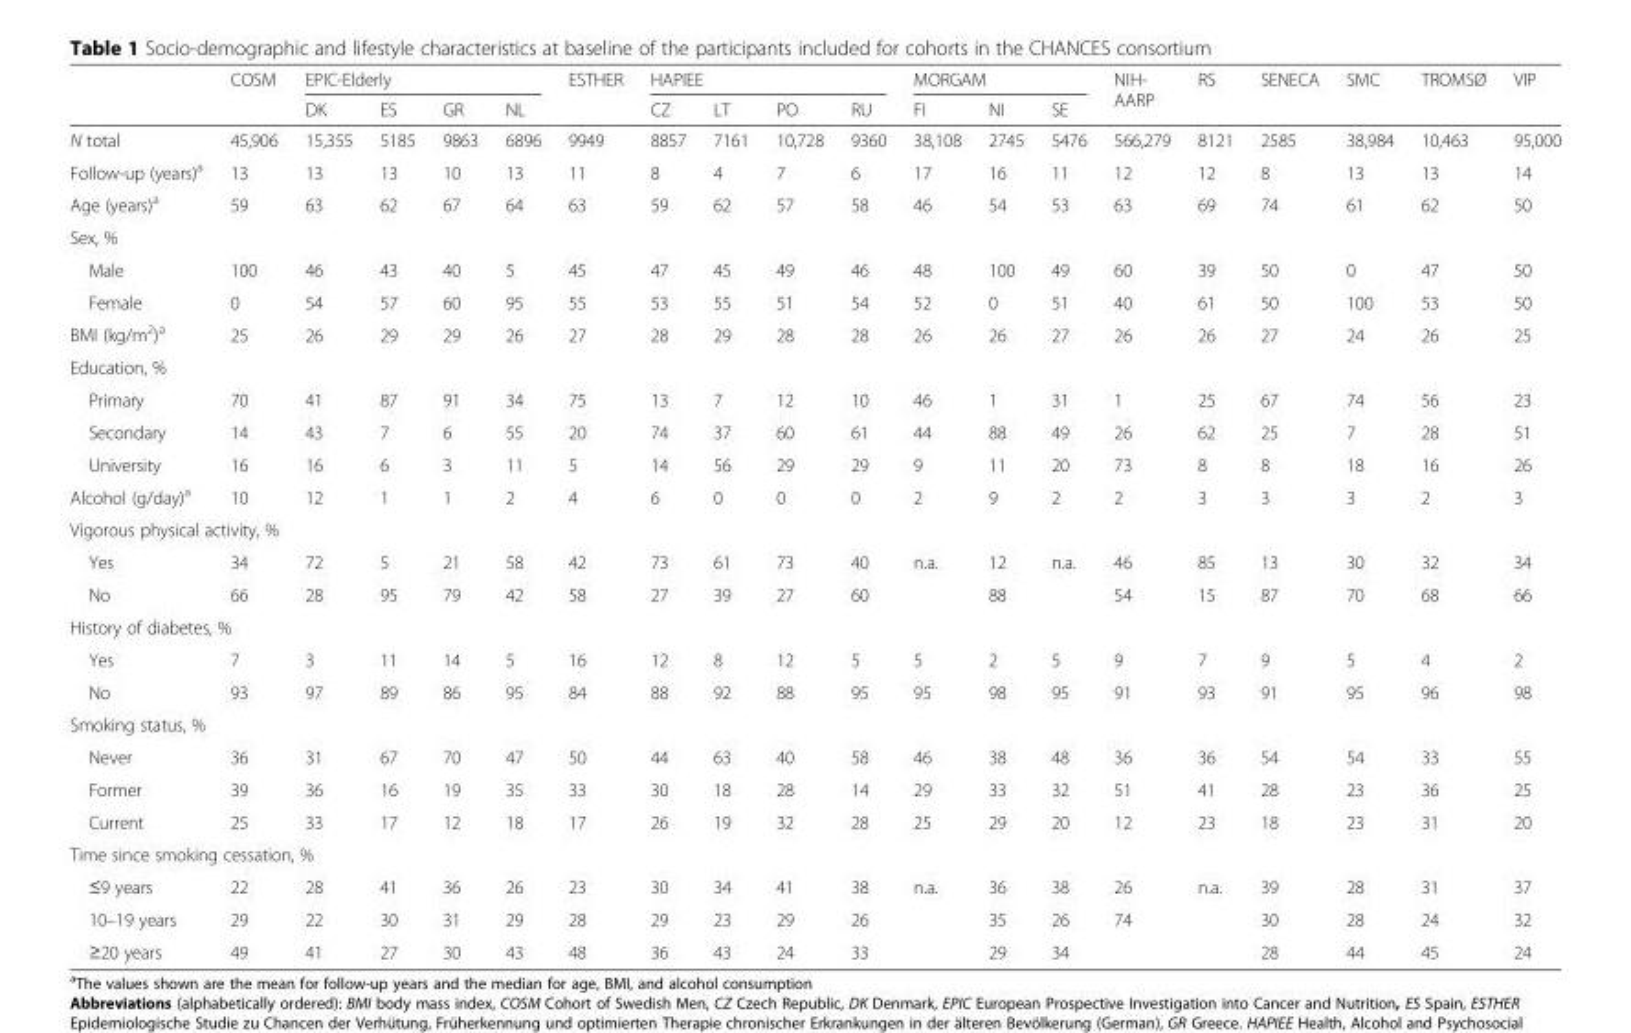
<table><thead><tr><td rowspan="2"></td><td rowspan="2">COSM</td><td colspan="4">EPIC-Elderly</td><td rowspan="2">ESTHER</td><td colspan="4">HAPIEE</td><td colspan="3">MORGAM</td><td rowspan="2">NIH- AARP</td><td rowspan="2">RS</td><td rowspan="2">SENECA</td><td rowspan="2">SMC</td><td rowspan="2">TROMSØ</td><td rowspan="2">VIP</td></tr><tr><td>DK</td><td>ES</td><td>GR</td><td>NL</td><td>CZ</td><td>LT</td><td>PO</td><td>RU</td><td>FI</td><td>NI</td><td>SE</td></tr></thead><tbody><tr><td>N total</td><td>45,906</td><td>15,355</td><td>5185</td><td>9863</td><td>6896</td><td>9949</td><td>8857</td><td>7161</td><td>10,728</td><td>9360</td><td>38,108</td><td>2745</td><td>5476</td><td>566,279</td><td>8121</td><td>2585</td><td>38,984</td><td>10,463</td><td>95,000</td></tr><tr><td>Follow-up (years)<sup>a</sup></td><td>13</td><td>13</td><td>13</td><td>10</td><td>13</td><td>11</td><td>8</td><td>4</td><td>7</td><td>6</td><td>17</td><td>16</td><td>11</td><td>12</td><td>12</td><td>8</td><td>13</td><td>13</td><td>14</td></tr><tr><td>Age (years)<sup>a</sup></td><td>59</td><td>63</td><td>62</td><td>67</td><td>64</td><td>63</td><td>59</td><td>62</td><td>57</td><td>58</td><td>46</td><td>54</td><td>53</td><td>63</td><td>69</td><td>74</td><td>61</td><td>62</td><td>50</td></tr><tr><td colspan="20">Sex, %</td></tr><tr><td>Male</td><td>100</td><td>46</td><td>43</td><td>40</td><td>5</td><td>45</td><td>47</td><td>45</td><td>49</td><td>46</td><td>48</td><td>100</td><td>49</td><td>60</td><td>39</td><td>50</td><td>0</td><td>47</td><td>50</td></tr><tr><td>Female</td><td>0</td><td>54</td><td>57</td><td>60</td><td>95</td><td>55</td><td>53</td><td>55</td><td>51</td><td>54</td><td>52</td><td>0</td><td>51</td><td>40</td><td>61</td><td>50</td><td>100</td><td>53</td><td>50</td></tr><tr><td>BMI (kg/m<sup>2</sup>)<sup>a</sup></td><td>25</td><td>26</td><td>29</td><td>29</td><td>26</td><td>27</td><td>28</td><td>29</td><td>28</td><td>28</td><td>26</td><td>26</td><td>27</td><td>26</td><td>26</td><td>27</td><td>24</td><td>26</td><td>25</td></tr><tr><td colspan="20">Education, %</td></tr><tr><td>Primary</td><td>70</td><td>41</td><td>87</td><td>91</td><td>34</td><td>75</td><td>13</td><td>7</td><td>12</td><td>10</td><td>46</td><td>1</td><td>31</td><td>1</td><td>25</td><td>67</td><td>74</td><td>56</td><td>23</td></tr><tr><td>Secondary</td><td>14</td><td>43</td><td>7</td><td>6</td><td>55</td><td>20</td><td>74</td><td>37</td><td>60</td><td>61</td><td>44</td><td>88</td><td>49</td><td>26</td><td>62</td><td>25</td><td>7</td><td>28</td><td>51</td></tr><tr><td>University</td><td>16</td><td>16</td><td>6</td><td>3</td><td>11</td><td>5</td><td>14</td><td>56</td><td>29</td><td>29</td><td>9</td><td>11</td><td>20</td><td>73</td><td>8</td><td>8</td><td>18</td><td>16</td><td>26</td></tr><tr><td>Alcohol (g/day)<sup>a</sup></td><td>10</td><td>12</td><td>1</td><td>1</td><td>2</td><td>4</td><td>6</td><td>0</td><td>0</td><td>0</td><td>2</td><td>9</td><td>2</td><td>2</td><td>3</td><td>3</td><td>3</td><td>2</td><td>3</td></tr><tr><td colspan="20">Vigorous physical activity, %</td></tr><tr><td>Yes</td><td>34</td><td>72</td><td>5</td><td>21</td><td>58</td><td>42</td><td>73</td><td>61</td><td>73</td><td>40</td><td rowspan="2">n.a.</td><td>12</td><td rowspan="2">n.a.</td><td>46</td><td>85</td><td>13</td><td>30</td><td>32</td><td>34</td></tr><tr><td>No</td><td>66</td><td>28</td><td>95</td><td>79</td><td>42</td><td>58</td><td>27</td><td>39</td><td>27</td><td>60</td><td>88</td><td>54</td><td>15</td><td>87</td><td>70</td><td>68</td><td>66</td></tr><tr><td colspan="20">History of diabetes, %</td></tr><tr><td>Yes</td><td>7</td><td>3</td><td>11</td><td>14</td><td>5</td><td>16</td><td>12</td><td>8</td><td>12</td><td>5</td><td>5</td><td>2</td><td>5</td><td>9</td><td>7</td><td>9</td><td>5</td><td>4</td><td>2</td></tr><tr><td>No</td><td>93</td><td>97</td><td>89</td><td>86</td><td>95</td><td>84</td><td>88</td><td>92</td><td>88</td><td>95</td><td>95</td><td>98</td><td>95</td><td>91</td><td>93</td><td>91</td><td>95</td><td>96</td><td>98</td></tr><tr><td colspan="20">Smoking status, %</td></tr><tr><td>Never</td><td>36</td><td>31</td><td>67</td><td>70</td><td>47</td><td>50</td><td>44</td><td>63</td><td>40</td><td>58</td><td>46</td><td>38</td><td>48</td><td>36</td><td>36</td><td>54</td><td>54</td><td>33</td><td>55</td></tr><tr><td>Former</td><td>39</td><td>36</td><td>16</td><td>19</td><td>35</td><td>33</td><td>30</td><td>18</td><td>28</td><td>14</td><td>29</td><td>33</td><td>32</td><td>51</td><td>41</td><td>28</td><td>23</td><td>36</td><td>25</td></tr><tr><td>Current</td><td>25</td><td>33</td><td>17</td><td>12</td><td>18</td><td>17</td><td>26</td><td>19</td><td>32</td><td>28</td><td>25</td><td>29</td><td>20</td><td>12</td><td>23</td><td>18</td><td>23</td><td>31</td><td>20</td></tr><tr><td colspan="20">Time since smoking cessation, %</td></tr><tr><td>≤9 years</td><td>22</td><td>28</td><td>41</td><td>36</td><td>26</td><td>23</td><td>30</td><td>34</td><td>41</td><td>38</td><td rowspan="2">n.a.</td><td>36</td><td>38</td><td>26</td><td rowspan="3">n.a.</td><td>39</td><td>28</td><td>31</td><td>37</td></tr><tr><td>10–19 years</td><td>29</td><td>22</td><td>30</td><td>31</td><td>29</td><td>28</td><td>29</td><td>23</td><td>29</td><td>26</td><td>35</td><td>26</td><td rowspan="2">74</td><td>30</td><td>28</td><td>24</td><td>32</td></tr><tr><td>≥20 years</td><td>49</td><td>41</td><td>27</td><td>30</td><td>43</td><td>48</td><td>36</td><td>43</td><td>24</td><td>33</td><td></td><td>29</td><td>34</td><td>28</td><td>44</td><td>45</td><td>24</td></tr></tbody></table>